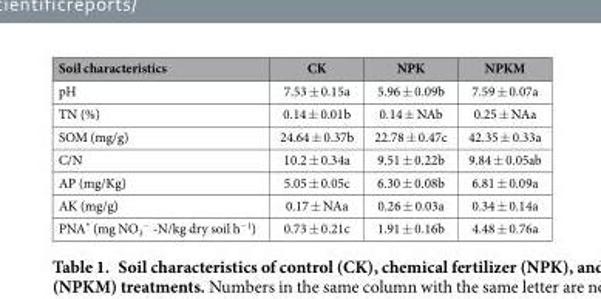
<table><thead><tr><td>Soil characteristics</td><td>CK</td><td>NPK</td><td>NPKM</td></tr></thead><tbody><tr><td>pH</td><td>7.53 ± 0.15a</td><td>5.96 ± 0.09b</td><td>7.59 ± 0.07a</td></tr><tr><td>TN (%)</td><td>0.14 ± 0.01b</td><td>0.14 ± NAb</td><td>0.25 ± NAa</td></tr><tr><td>SOM (mg/g)</td><td>24.64 ± 0.37b</td><td>22.78 ± 0.47c</td><td>42.35 ± 0.33a</td></tr><tr><td>C/N</td><td>10.2 ± 0.34a</td><td>9.51 ± 0.22b</td><td>9.84 ± 0.05ab</td></tr><tr><td>AP (mg/Kg)</td><td>5.05 ± 0.05c</td><td>6.30 ± 0.08b</td><td>6.81 ± 0.09a</td></tr><tr><td>AK (mg/g)</td><td>0.17 ± NAa</td><td>0.26 ± 0.03a</td><td>0.34 ± 0.14a</td></tr><tr><td>PNA* (mg NO<sub>3</sub> <sup>−</sup> -N/kg dry soil h<sup>−1</sup>)</td><td>0.73 ± 0.21c</td><td>1.91 ± 0.16b</td><td>4.48 ± 0.76a</td></tr></tbody></table>